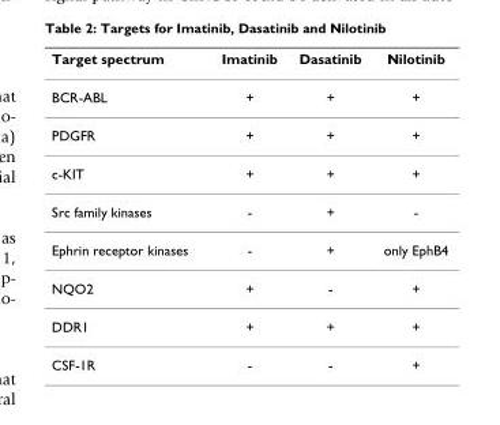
<table><thead><tr><td>Target spectrum</td><td>Imatinib</td><td>Dasatinib</td><td>Nilotinib</td></tr></thead><tbody><tr><td>BCR-ABL</td><td>+</td><td>+</td><td>+</td></tr><tr><td>PDGFR</td><td>+</td><td>+</td><td>+</td></tr><tr><td>c-KIT</td><td>+</td><td>+</td><td>+</td></tr><tr><td>Src family kinases</td><td>-</td><td>+</td><td>-</td></tr><tr><td>Ephrin receptor kinases</td><td>-</td><td>+</td><td>only EphB4</td></tr><tr><td>NQO2</td><td>+</td><td>-</td><td>+</td></tr><tr><td>DDR1</td><td>+</td><td>+</td><td>+</td></tr><tr><td>CSF-1R</td><td>-</td><td>-</td><td>+</td></tr></tbody></table>